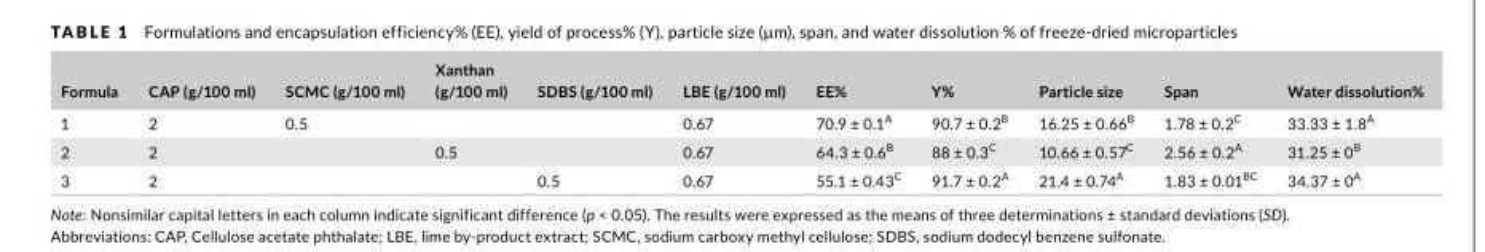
<table><thead><tr><td>Formula</td><td>CAP (g/100 ml)</td><td>SCMC (g/100 ml)</td><td>Xanthan (g/100 ml)</td><td>SDBS (g/100 ml)</td><td>LBE (g/100 ml)</td><td>EE%</td><td>Y%</td><td>Particle size</td><td>Span</td><td>Water dissolution%</td></tr></thead><tbody><tr><td>1</td><td>2</td><td>0.5</td><td></td><td></td><td>0.67</td><td>70.9 ± 0.1<sup>A</sup></td><td>90.7 ± 0.2<sup>B</sup></td><td>16.25 ± 0.66<sup>B</sup></td><td>1.78 ± 0.2<sup>C</sup></td><td>33.33 ± 1.8<sup>A</sup></td></tr><tr><td>2</td><td>2</td><td></td><td>0.5</td><td></td><td>0.67</td><td>64.3 ± 0.6<sup>B</sup></td><td>88 ± 0.3<sup>C</sup></td><td>10.66 ± 0.57<sup>C</sup></td><td>2.56 ± 0.2<sup>A</sup></td><td>31.25 ± 0<sup>B</sup></td></tr><tr><td>3</td><td>2</td><td></td><td></td><td>0.5</td><td>0.67</td><td>55.1 ± 0.43<sup>C</sup></td><td>91.7 ± 0.2<sup>A</sup></td><td>21.4 ± 0.74<sup>A</sup></td><td>1.83 ± 0.01<sup>BC</sup></td><td>34.37 ± 0<sup>A</sup></td></tr></tbody></table>